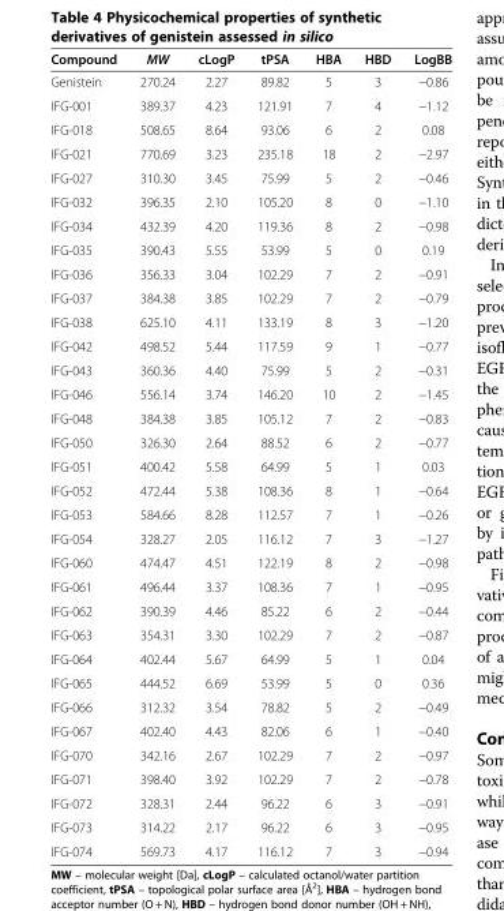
<table><thead><tr><td>Compound</td><td>MW</td><td>cLogP</td><td>tPSA</td><td>HBA</td><td>HBD</td><td>LogBB</td></tr></thead><tbody><tr><td>Genistein</td><td>270.24</td><td>2.27</td><td>89.82</td><td>5</td><td>3</td><td>−0.86</td></tr><tr><td>IFG-001</td><td>389.37</td><td>4.23</td><td>121.91</td><td>7</td><td>4</td><td>−1.12</td></tr><tr><td>IFG-018</td><td>508.65</td><td>8.64</td><td>93.06</td><td>6</td><td>2</td><td>0.08</td></tr><tr><td>IFG-021</td><td>770.69</td><td>3.23</td><td>235.18</td><td>18</td><td>2</td><td>−2.97</td></tr><tr><td>IFG-027</td><td>310.30</td><td>3.45</td><td>75.99</td><td>5</td><td>2</td><td>−0.46</td></tr><tr><td>IFG-032</td><td>396.35</td><td>2.10</td><td>105.20</td><td>8</td><td>0</td><td>−1.10</td></tr><tr><td>IFG-034</td><td>432.39</td><td>4.20</td><td>119.36</td><td>8</td><td>2</td><td>−0.98</td></tr><tr><td>IFG-035</td><td>390.43</td><td>5.55</td><td>53.99</td><td>5</td><td>0</td><td>0.19</td></tr><tr><td>IFG-036</td><td>356.33</td><td>3.04</td><td>102.29</td><td>7</td><td>2</td><td>−0.91</td></tr><tr><td>IFG-037</td><td>384.38</td><td>3.85</td><td>102.29</td><td>7</td><td>2</td><td>−0.79</td></tr><tr><td>IFG-038</td><td>625.10</td><td>4.11</td><td>133.19</td><td>8</td><td>3</td><td>−1.20</td></tr><tr><td>IFG-042</td><td>498.52</td><td>5.44</td><td>117.59</td><td>9</td><td>1</td><td>−0.77</td></tr><tr><td>IFG-043</td><td>360.36</td><td>4.40</td><td>75.99</td><td>5</td><td>2</td><td>−0.31</td></tr><tr><td>IFG-046</td><td>556.14</td><td>3.74</td><td>146.20</td><td>10</td><td>2</td><td>−1.45</td></tr><tr><td>IFG-048</td><td>384.38</td><td>3.85</td><td>105.12</td><td>7</td><td>2</td><td>−0.83</td></tr><tr><td>IFG-050</td><td>326.30</td><td>2.64</td><td>88.52</td><td>6</td><td>2</td><td>−0.77</td></tr><tr><td>IFG-051</td><td>400.42</td><td>5.58</td><td>64.99</td><td>5</td><td>1</td><td>0.03</td></tr><tr><td>IFG-052</td><td>472.44</td><td>5.38</td><td>108.36</td><td>8</td><td>1</td><td>−0.64</td></tr><tr><td>IFG-053</td><td>584.66</td><td>8.28</td><td>112.57</td><td>7</td><td>1</td><td>−0.26</td></tr><tr><td>IFG-054</td><td>328.27</td><td>2.05</td><td>116.12</td><td>7</td><td>3</td><td>−1.27</td></tr><tr><td>IFG-060</td><td>474.47</td><td>4.51</td><td>122.19</td><td>8</td><td>2</td><td>−0.98</td></tr><tr><td>IFG-061</td><td>496.44</td><td>3.37</td><td>108.36</td><td>7</td><td>1</td><td>−0.95</td></tr><tr><td>IFG-062</td><td>390.39</td><td>4.46</td><td>85.22</td><td>6</td><td>2</td><td>−0.44</td></tr><tr><td>IFG-063</td><td>354.31</td><td>3.30</td><td>102.29</td><td>7</td><td>2</td><td>−0.87</td></tr><tr><td>IFG-064</td><td>402.44</td><td>5.67</td><td>64.99</td><td>5</td><td>1</td><td>0.04</td></tr><tr><td>IFG-065</td><td>444.52</td><td>6.69</td><td>53.99</td><td>5</td><td>0</td><td>0.36</td></tr><tr><td>IFG-066</td><td>312.32</td><td>3.54</td><td>78.82</td><td>5</td><td>2</td><td>−0.49</td></tr><tr><td>IFG-067</td><td>402.40</td><td>4.43</td><td>82.06</td><td>6</td><td>1</td><td>−0.40</td></tr><tr><td>IFG-070</td><td>342.16</td><td>2.67</td><td>102.29</td><td>7</td><td>2</td><td>−0.97</td></tr><tr><td>IFG-071</td><td>398.40</td><td>3.92</td><td>102.29</td><td>7</td><td>2</td><td>−0.78</td></tr><tr><td>IFG-072</td><td>328.31</td><td>2.44</td><td>96.22</td><td>6</td><td>3</td><td>−0.91</td></tr><tr><td>IFG-073</td><td>314.22</td><td>2.17</td><td>96.22</td><td>6</td><td>3</td><td>−0.95</td></tr><tr><td>IFG-074</td><td>569.73</td><td>4.17</td><td>116.12</td><td>7</td><td>3</td><td>−0.94</td></tr></tbody></table>